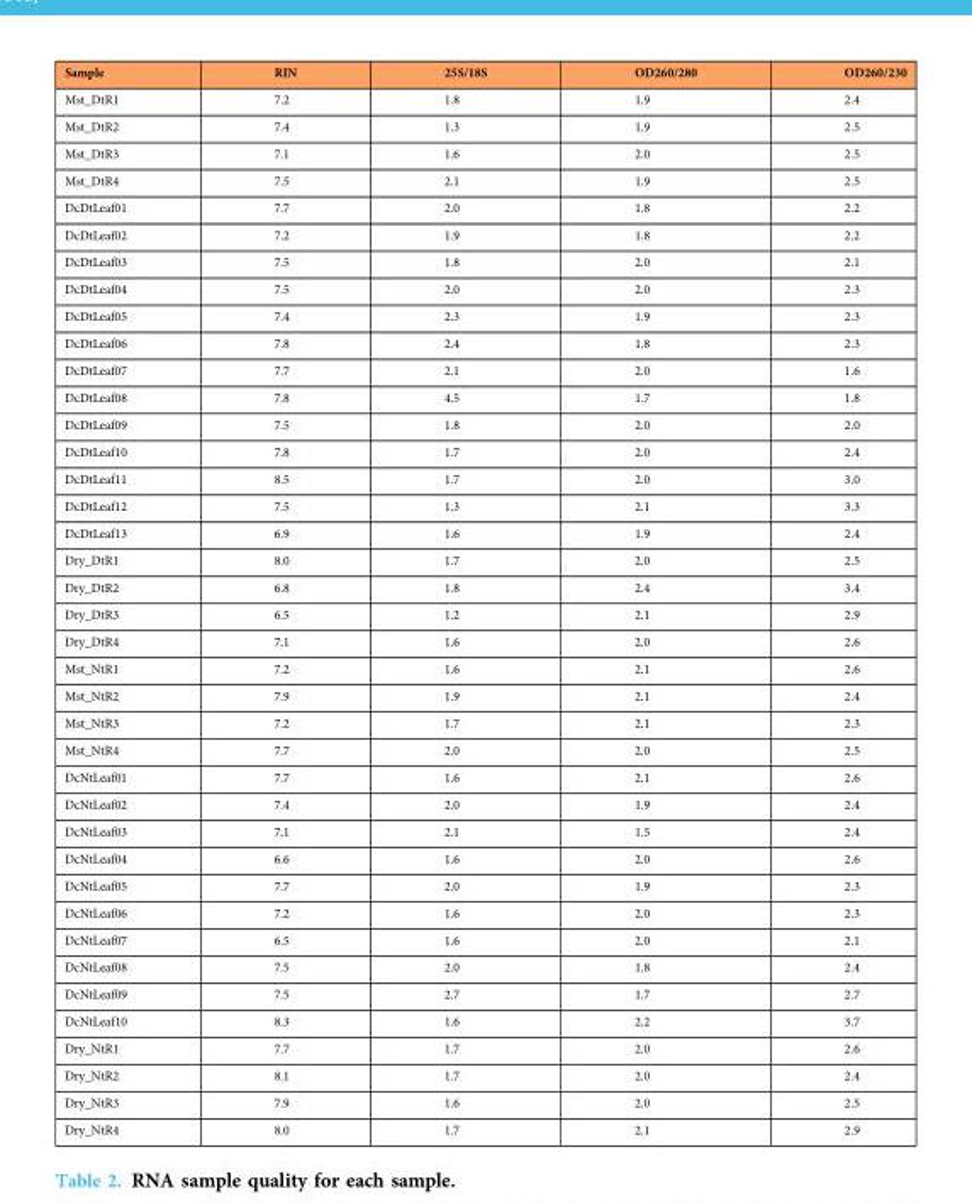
<table><thead><tr><td>Sample</td><td>RIN</td><td>25S/18S</td><td>OD260/280</td><td>OD260/230</td></tr></thead><tbody><tr><td>Mst_DtR1</td><td>7.2</td><td>1.8</td><td>1.9</td><td>2.4</td></tr><tr><td>Mst_DtR2</td><td>7.4</td><td>1.3</td><td>1.9</td><td>2.5</td></tr><tr><td>Mst_DtR3</td><td>7.1</td><td>1.6</td><td>2.0</td><td>2.5</td></tr><tr><td>Mst_DtR4</td><td>7.5</td><td>2.1</td><td>1.9</td><td>2.5</td></tr><tr><td>DcDtLeaf01</td><td>7.7</td><td>2.0</td><td>1.8</td><td>2.2</td></tr><tr><td>DcDtLeaf02</td><td>7.2</td><td>1.9</td><td>1.8</td><td>2.2</td></tr><tr><td>DcDtLeaf03</td><td>7.5</td><td>1.8</td><td>2.0</td><td>2.1</td></tr><tr><td>DcDtLeaf04</td><td>7.5</td><td>2.0</td><td>2.0</td><td>2.3</td></tr><tr><td>DcDtLeaf05</td><td>7.4</td><td>2.3</td><td>1.9</td><td>2.3</td></tr><tr><td>DcDtLeaf06</td><td>7.8</td><td>2.4</td><td>1.8</td><td>2.3</td></tr><tr><td>DcDtLeaf07</td><td>7.7</td><td>2.1</td><td>2.0</td><td>1.6</td></tr><tr><td>DcDtLeaf08</td><td>7.8</td><td>4.5</td><td>1.7</td><td>1.8</td></tr><tr><td>DcDtLeaf09</td><td>7.5</td><td>1.8</td><td>2.0</td><td>2.0</td></tr><tr><td>DcDtLeaf10</td><td>7.8</td><td>1.7</td><td>2.0</td><td>2.4</td></tr><tr><td>DcDtLeaf11</td><td>8.5</td><td>1.7</td><td>2.0</td><td>3.0</td></tr><tr><td>DcDtLeaf12</td><td>7.5</td><td>1.3</td><td>2.1</td><td>3.3</td></tr><tr><td>DcDtLeaf13</td><td>6.9</td><td>1.6</td><td>1.9</td><td>2.4</td></tr><tr><td>Dry_DtR1</td><td>8.0</td><td>1.7</td><td>2.0</td><td>2.5</td></tr><tr><td>Dry_DtR2</td><td>6.8</td><td>1.8</td><td>2.4</td><td>3.4</td></tr><tr><td>Dry_DtR3</td><td>6.5</td><td>1.2</td><td>2.1</td><td>2.9</td></tr><tr><td>Dry_DtR4</td><td>7.1</td><td>1.6</td><td>2.0</td><td>2.6</td></tr><tr><td>Mst_NtR1</td><td>7.2</td><td>1.6</td><td>2.1</td><td>2.6</td></tr><tr><td>Mst_NtR2</td><td>7.9</td><td>1.9</td><td>2.1</td><td>2.4</td></tr><tr><td>Mst_NtR3</td><td>7.2</td><td>1.7</td><td>2.1</td><td>2.3</td></tr><tr><td>Mst_NtR4</td><td>7.7</td><td>2.0</td><td>2.0</td><td>2.5</td></tr><tr><td>DcNtLeaf01</td><td>7.7</td><td>1.6</td><td>2.1</td><td>2.6</td></tr><tr><td>DcNtLeaf02</td><td>7.4</td><td>2.0</td><td>1.9</td><td>2.4</td></tr><tr><td>DcNtLeaf03</td><td>7.1</td><td>2.1</td><td>1.5</td><td>2.4</td></tr><tr><td>DcNtLeaf04</td><td>6.6</td><td>1.6</td><td>2.0</td><td>2.6</td></tr><tr><td>DcNtLeaf05</td><td>7.7</td><td>2.0</td><td>1.9</td><td>2.3</td></tr><tr><td>DcNtLeaf06</td><td>7.2</td><td>1.6</td><td>2.0</td><td>2.3</td></tr><tr><td>DcNtLeaf07</td><td>6.5</td><td>1.6</td><td>2.0</td><td>2.1</td></tr><tr><td>DcNtLeaf08</td><td>7.5</td><td>2.0</td><td>1.8</td><td>2.4</td></tr><tr><td>DcNtLeaf09</td><td>7.5</td><td>2.7</td><td>1.7</td><td>2.7</td></tr><tr><td>DcNtLeaf10</td><td>8.3</td><td>1.6</td><td>2.2</td><td>3.7</td></tr><tr><td>Dry_NtR1</td><td>7.7</td><td>1.7</td><td>2.0</td><td>2.6</td></tr><tr><td>Dry_NtR2</td><td>8.1</td><td>1.7</td><td>2.0</td><td>2.4</td></tr><tr><td>Dry_NtR3</td><td>7.9</td><td>1.6</td><td>2.0</td><td>2.5</td></tr><tr><td>Dry_NtR4</td><td>8.0</td><td>1.7</td><td>2.1</td><td>2.9</td></tr></tbody></table>